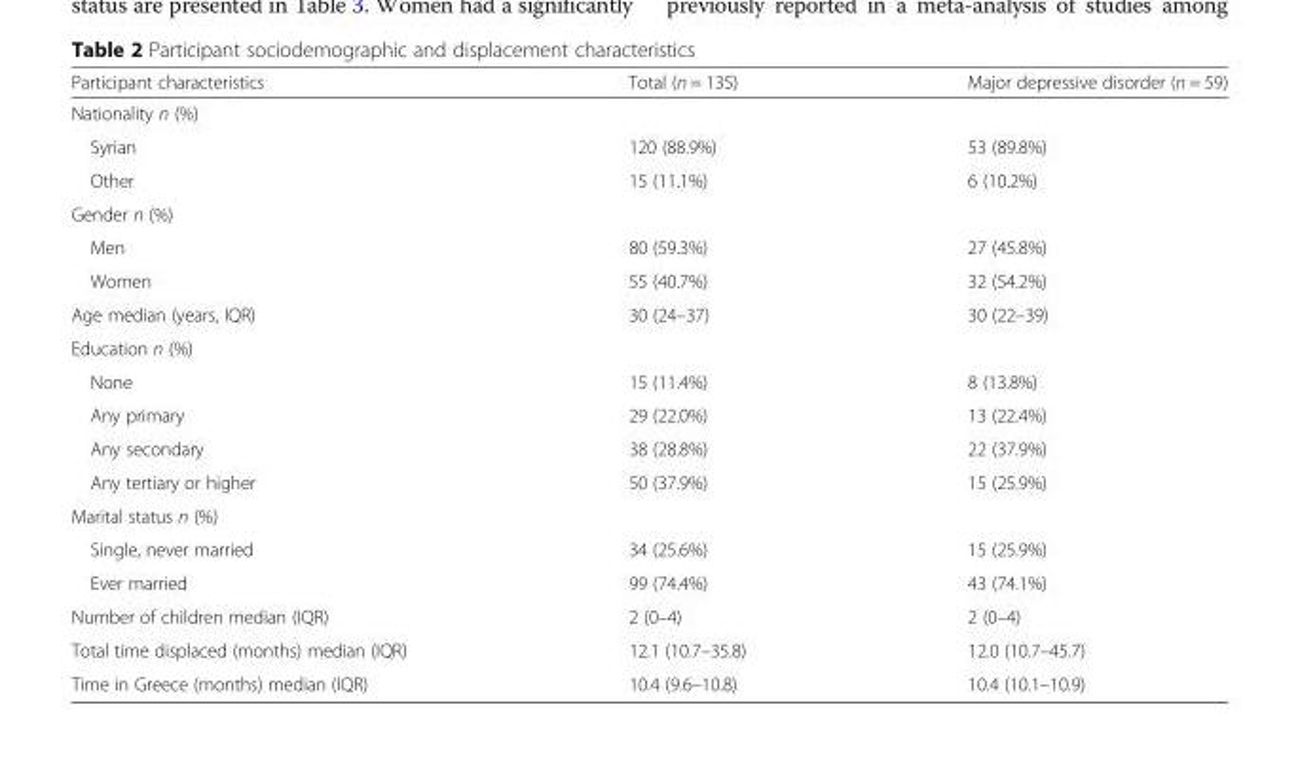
<table><thead><tr><td>Participant characteristics</td><td>Total (n = 135)</td><td>Major depressive disorder (n = 59)</td></tr></thead><tbody><tr><td colspan="3">Nationality n (%)</td></tr><tr><td>Syrian</td><td>120 (88.9%)</td><td>53 (89.8%)</td></tr><tr><td>Other</td><td>15 (11.1%)</td><td>6 (10.2%)</td></tr><tr><td colspan="3">Gender n (%)</td></tr><tr><td>Men</td><td>80 (59.3%)</td><td>27 (45.8%)</td></tr><tr><td>Women</td><td>55 (40.7%)</td><td>32 (54.2%)</td></tr><tr><td>Age median (years, IQR)</td><td>30 (24–37)</td><td>30 (22–39)</td></tr><tr><td colspan="3">Education n (%)</td></tr><tr><td>None</td><td>15 (11.4%)</td><td>8 (13.8%)</td></tr><tr><td>Any primary</td><td>29 (22.0%)</td><td>13 (22.4%)</td></tr><tr><td>Any secondary</td><td>38 (28.8%)</td><td>22 (37.9%)</td></tr><tr><td>Any tertiary or higher</td><td>50 (37.9%)</td><td>15 (25.9%)</td></tr><tr><td colspan="3">Marital status n (%)</td></tr><tr><td>Single, never married</td><td>34 (25.6%)</td><td>15 (25.9%)</td></tr><tr><td>Ever married</td><td>99 (74.4%)</td><td>43 (74.1%)</td></tr><tr><td>Number of children median (IQR)</td><td>2 (0–4)</td><td>2 (0–4)</td></tr><tr><td>Total time displaced (months) median (IQR)</td><td>12.1 (10.7–35.8)</td><td>12.0 (10.7–45.7)</td></tr><tr><td>Time in Greece (months) median (IQR)</td><td>10.4 (9.6–10.8)</td><td>10.4 (10.1–10.9)</td></tr></tbody></table>